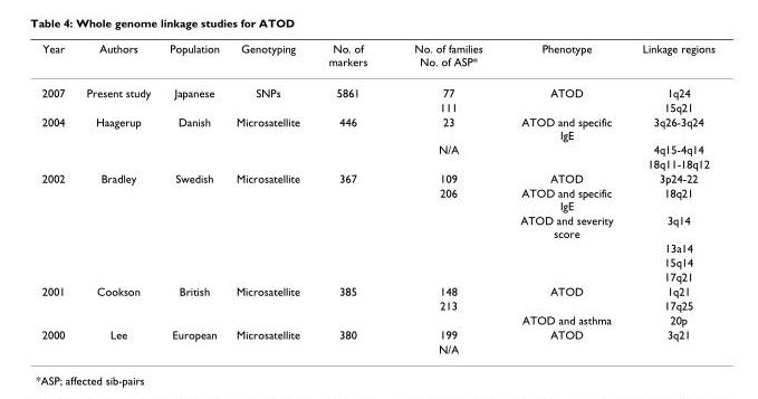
<table><thead><tr><td>Year</td><td>Authors</td><td>Population</td><td>Genotyping</td><td>No. of markers</td><td>No. of families No. of ASP*</td><td>Phenotype</td><td>Linkage regions</td></tr></thead><tbody><tr><td rowspan="2">2007</td><td>Present study</td><td>Japanese</td><td>SNPs</td><td>5861</td><td>77</td><td>ATOD</td><td>1q24</td></tr><tr><td></td><td></td><td></td><td></td><td>111</td><td></td><td>15q21</td></tr><tr><td rowspan="3">2004</td><td>Haagerup</td><td>Danish</td><td>Microsatellite</td><td>446</td><td>23</td><td>ATOD and specific IgE</td><td>3q26-3q24</td></tr><tr><td></td><td></td><td></td><td></td><td>N/A</td><td></td><td>4q15-4q14</td></tr><tr><td></td><td></td><td></td><td></td><td></td><td></td><td>18q11-18q12</td></tr><tr><td rowspan="6">2002</td><td>Bradley</td><td>Swedish</td><td>Microsatellite</td><td>367</td><td>109</td><td>ATOD</td><td>3p24-22</td></tr><tr><td></td><td></td><td></td><td></td><td>206</td><td>ATOD and specific IgE</td><td>18q21</td></tr><tr><td></td><td></td><td></td><td></td><td></td><td>ATOD and severity score</td><td>3q14</td></tr><tr><td></td><td></td><td></td><td></td><td></td><td></td><td>13a14</td></tr><tr><td></td><td></td><td></td><td></td><td></td><td></td><td>15q14</td></tr><tr><td></td><td></td><td></td><td></td><td></td><td></td><td>17q21</td></tr><tr><td rowspan="3">2001</td><td>Cookson</td><td>British</td><td>Microsatellite</td><td>385</td><td>148</td><td>ATOD</td><td>1q21</td></tr><tr><td></td><td></td><td></td><td></td><td>213</td><td></td><td>17q25</td></tr><tr><td></td><td></td><td></td><td></td><td></td><td>ATOD and asthma</td><td>20p</td></tr><tr><td rowspan="2">2000</td><td>Lee</td><td>European</td><td>Microsatellite</td><td>380</td><td>199</td><td>ATOD</td><td>3q21</td></tr><tr><td></td><td></td><td></td><td></td><td>N/A</td><td></td><td></td></tr></tbody></table>